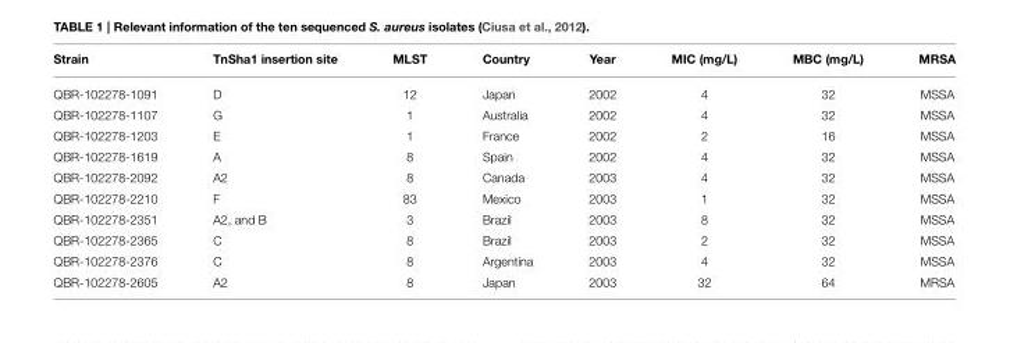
<table><thead><tr><td>Strain</td><td>TnSha1 insertion site</td><td>MLST</td><td>Country</td><td>Year</td><td>MIC (mg/L)</td><td>MBC (mg/L)</td><td>MRSA</td></tr></thead><tbody><tr><td>QBR-102278-1091</td><td>D</td><td>12</td><td>Japan</td><td>2002</td><td>4</td><td>32</td><td>MSSA</td></tr><tr><td>QBR-102278-1107</td><td>G</td><td>1</td><td>Australia</td><td>2002</td><td>4</td><td>32</td><td>MSSA</td></tr><tr><td>QBR-102278-1203</td><td>E</td><td>1</td><td>France</td><td>2002</td><td>2</td><td>16</td><td>MSSA</td></tr><tr><td>QBR-102278-1619</td><td>A</td><td>8</td><td>Spain</td><td>2002</td><td>4</td><td>32</td><td>MSSA</td></tr><tr><td>QBR-102278-2092</td><td>A2</td><td>8</td><td>Canada</td><td>2003</td><td>4</td><td>32</td><td>MSSA</td></tr><tr><td>QBR-102278-2210</td><td>F</td><td>83</td><td>Mexico</td><td>2003</td><td>1</td><td>32</td><td>MSSA</td></tr><tr><td>QBR-102278-2351</td><td>A2, and B</td><td>3</td><td>Brazil</td><td>2003</td><td>8</td><td>32</td><td>MSSA</td></tr><tr><td>QBR-102278-2365</td><td>C</td><td>8</td><td>Brazil</td><td>2003</td><td>2</td><td>32</td><td>MSSA</td></tr><tr><td>QBR-102278-2376</td><td>C</td><td>8</td><td>Argentina</td><td>2003</td><td>4</td><td>32</td><td>MSSA</td></tr><tr><td>QBR-102278-2605</td><td>A2</td><td>8</td><td>Japan</td><td>2003</td><td>32</td><td>64</td><td>MRSA</td></tr></tbody></table>